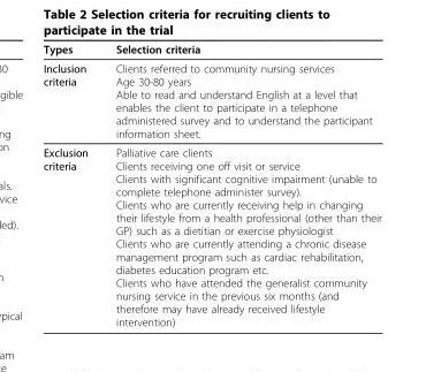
<table><thead><tr><td>Types</td><td>Selection criteria</td></tr></thead><tbody><tr><td>Inclusion criteria</td><td>Clients referred to community nursing services Age 30-80 years Able to read and understand English at a level that enables the client to participate in a telephone administered survey and to understand the participant information sheet.</td></tr><tr><td>Exclusion criteria</td><td>Palliative care clients Clients receiving one off visit or service Clients with significant cognitive impairment (unable to complete telephone administer survey). Clients who are currently receiving help in changing their lifestyle from a health professional (other than their GP) such as a dietitian or exercise physiologist Clients who are currently attending a chronic disease management program such as cardiac rehabilitation, diabetes education program etc. Clients who have attended the generalist community nursing service in the previous six months (and therefore may have already received lifestyle intervention)</td></tr></tbody></table>